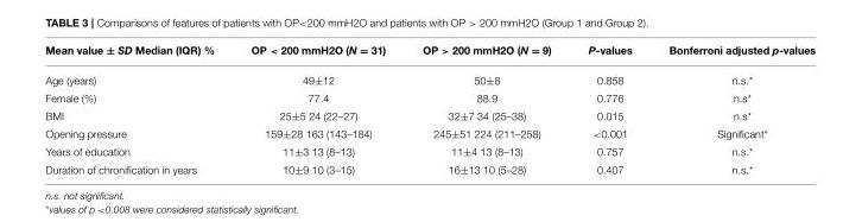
<table><thead><tr><td>Mean value ± SD Median (IQR) %</td><td>OP &lt; 200 mmH2O (N = 31)</td><td>OP &gt; 200 mmH2O (N = 9)</td><td>P-values</td><td>Bonferroni adjusted p-values</td></tr></thead><tbody><tr><td>Age (years)</td><td>49±12</td><td>50±8</td><td>0.858</td><td>n.s.*</td></tr><tr><td>Female (%)</td><td>77.4</td><td>88.9</td><td>0.776</td><td>n.s*</td></tr><tr><td>BMI</td><td>25±5 24 (22–27)</td><td>32±7 34 (25–38)</td><td>0.015</td><td>n.s*</td></tr><tr><td>Opening pressure</td><td>159±28 163 (143–184)</td><td>245±51 224 (211–258)</td><td>&lt;0.001</td><td>Significant*</td></tr><tr><td>Years of education</td><td>11±3 13 (8–13)</td><td>11±4 13 (8–13)</td><td>0.757</td><td>n.s.*</td></tr><tr><td>Duration of chronification in years</td><td>10±9 10 (3–15)</td><td>16±13 10 (5–28)</td><td>0.407</td><td>n.s.*</td></tr></tbody></table>